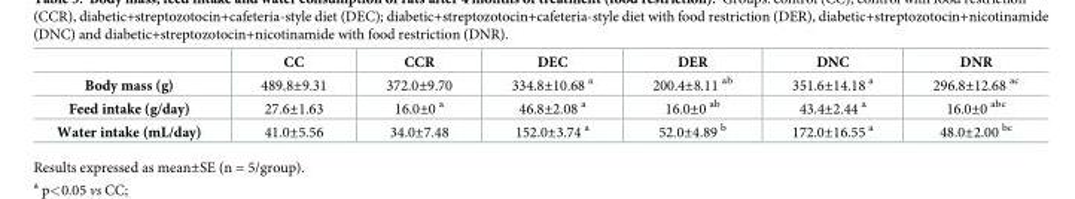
<table><thead><tr><td></td><td>CC</td><td>CCR</td><td>DEC</td><td>DER</td><td>DNC</td><td>DNR</td></tr></thead><tbody><tr><td>Body mass (g)</td><td>489.8±9.31</td><td>372.0±9.70</td><td>334.8±10.68 <sup>a</sup></td><td>200.4±8.11 <sup>ab</sup></td><td>351.6±14.18 <sup>a</sup></td><td>296.8±12.68 <sup>ac</sup></td></tr><tr><td>Feed intake (g/day)</td><td>27.6±1.63</td><td>16.0±0 <sup>a</sup></td><td>46.8±2.08 <sup>a</sup></td><td>16.0±0 <sup>ab</sup></td><td>43.4±2.44 <sup>a</sup></td><td>16.0±0 <sup>abc</sup></td></tr><tr><td>Water intake (mL/day)</td><td>41.0±5.56</td><td>34.0±7.48</td><td>152.0±3.74 <sup>a</sup></td><td>52.0±4.89 <sup>b</sup></td><td>172.0±16.55 <sup>a</sup></td><td>48.0±2.00 <sup>bc</sup></td></tr></tbody></table>